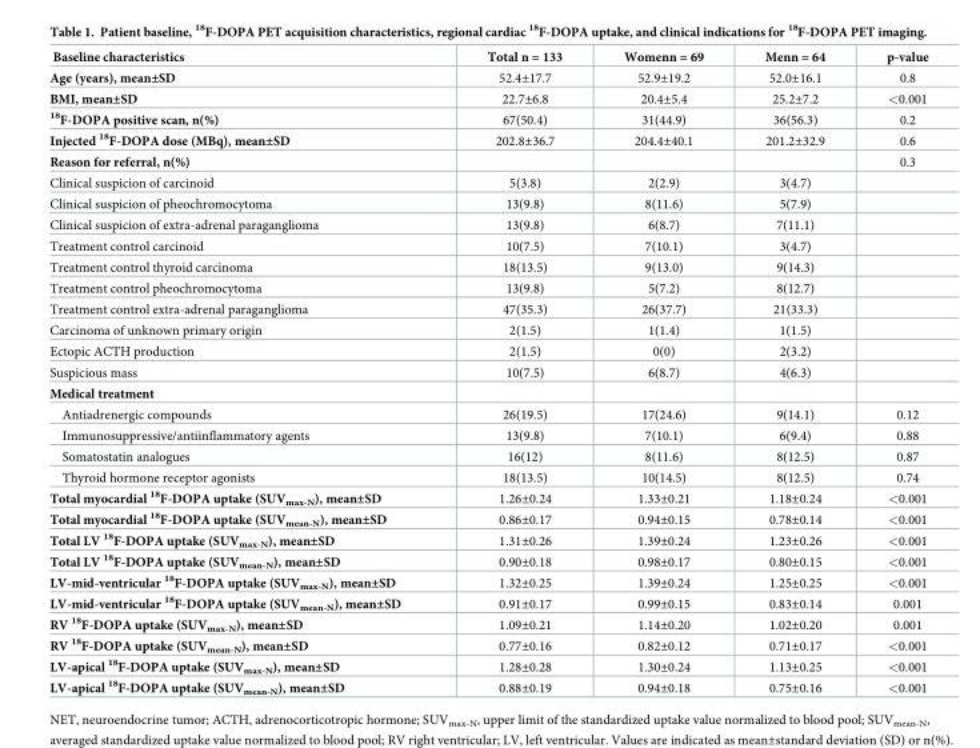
<table><thead><tr><td>Baseline characteristics</td><td>Total n = 133</td><td>Womenn = 69</td><td>Menn = 64</td><td>p-value</td></tr></thead><tbody><tr><td>Age (years), mean±SD</td><td>52.4±17.7</td><td>52.9±19.2</td><td>52.0±16.1</td><td>0.8</td></tr><tr><td>BMI, mean±SD</td><td>22.7±6.8</td><td>20.4±5.4</td><td>25.2±7.2</td><td>&lt;0.001</td></tr><tr><td><sup>18</sup>F-DOPA positive scan, n(%)</td><td>67(50.4)</td><td>31(44.9)</td><td>36(56.3)</td><td>0.2</td></tr><tr><td>Injected <sup>18</sup>F-DOPA dose (MBq), mean±SD</td><td>202.8±36.7</td><td>204.4±40.1</td><td>201.2±32.9</td><td>0.6</td></tr><tr><td>Reason for referral, n(%)</td><td></td><td></td><td></td><td>0.3</td></tr><tr><td>Clinical suspicion of carcinoid</td><td>5(3.8)</td><td>2(2.9)</td><td>3(4.7)</td><td></td></tr><tr><td>Clinical suspicion of pheochromocytoma</td><td>13(9.8)</td><td>8(11.6)</td><td>5(7.9)</td><td></td></tr><tr><td>Clinical suspicion of extra-adrenal paraganglioma</td><td>13(9.8)</td><td>6(8.7)</td><td>7(11.1)</td><td></td></tr><tr><td>Treatment control carcinoid</td><td>10(7.5)</td><td>7(10.1)</td><td>3(4.7)</td><td></td></tr><tr><td>Treatment control thyroid carcinoma</td><td>18(13.5)</td><td>9(13.0)</td><td>9(14.3)</td><td></td></tr><tr><td>Treatment control pheochromocytoma</td><td>13(9.8)</td><td>5(7.2)</td><td>8(12.7)</td><td></td></tr><tr><td>Treatment control extra-adrenal paraganglioma</td><td>47(35.3)</td><td>26(37.7)</td><td>21(33.3)</td><td></td></tr><tr><td>Carcinoma of unknown primary origin</td><td>2(1.5)</td><td>1(1.4)</td><td>1(1.5)</td><td></td></tr><tr><td>Ectopic ACTH production</td><td>2(1.5)</td><td>0(0)</td><td>2(3.2)</td><td></td></tr><tr><td>Suspicious mass</td><td>10(7.5)</td><td>6(8.7)</td><td>4(6.3)</td><td></td></tr><tr><td colspan="5">Medical treatment</td></tr><tr><td>Antiadrenergic compounds</td><td>26(19.5)</td><td>17(24.6)</td><td>9(14.1)</td><td>0.12</td></tr><tr><td>Immunosuppressive/antiinflammatory agents</td><td>13(9.8)</td><td>7(10.1)</td><td>6(9.4)</td><td>0.88</td></tr><tr><td>Somatostatin analogues</td><td>16(12)</td><td>8(11.6)</td><td>8(12.5)</td><td>0.87</td></tr><tr><td>Thyroid hormone receptor agonists</td><td>18(13.5)</td><td>10(14.5)</td><td>8(12.5)</td><td>0.74</td></tr><tr><td>Total myocardial <sup>18</sup>F-DOPA uptake (SUV<sub>max-N</sub>), mean±SD</td><td>1.26±0.24</td><td>1.33±0.21</td><td>1.18±0.24</td><td>&lt;0.001</td></tr><tr><td>Total myocardial <sup>18</sup>F-DOPA uptake (SUV<sub>mean-N</sub>), mean±SD</td><td>0.86±0.17</td><td>0.94±0.15</td><td>0.78±0.14</td><td>&lt;0.001</td></tr><tr><td>Total LV <sup>18</sup>F-DOPA uptake (SUV<sub>max-N</sub>), mean±SD</td><td>1.31±0.26</td><td>1.39±0.24</td><td>1.23±0.26</td><td>&lt;0.001</td></tr><tr><td>Total LV <sup>18</sup>F-DOPA uptake (SUV<sub>mean-N</sub>), mean±SD</td><td>0.90±0.18</td><td>0.98±0.17</td><td>0.80±0.15</td><td>&lt;0.001</td></tr><tr><td>LV-mid-ventricular <sup>18</sup>F-DOPA uptake (SUV<sub>max-N</sub>), mean±SD</td><td>1.32±0.25</td><td>1.39±0.24</td><td>1.25±0.25</td><td>&lt;0.001</td></tr><tr><td>LV-mid-ventricular <sup>18</sup>F-DOPA uptake (SUV<sub>mean-N</sub>), mean±SD</td><td>0.91±0.17</td><td>0.99±0.15</td><td>0.83±0.14</td><td>0.001</td></tr><tr><td>RV <sup>18</sup>F-DOPA uptake (SUV<sub>max-N</sub>), mean±SD</td><td>1.09±0.21</td><td>1.14±0.20</td><td>1.02±0.20</td><td>0.001</td></tr><tr><td>RV <sup>18</sup>F-DOPA uptake (SUV<sub>mean-N</sub>), mean±SD</td><td>0.77±0.16</td><td>0.82±0.12</td><td>0.71±0.17</td><td>&lt;0.001</td></tr><tr><td>LV-apical <sup>18</sup>F-DOPA uptake (SUV<sub>max-N</sub>), mean±SD</td><td>1.28±0.28</td><td>1.30±0.24</td><td>1.13±0.25</td><td>&lt;0.001</td></tr><tr><td>LV-apical <sup>18</sup>F-DOPA uptake (SUV<sub>mean-N</sub>), mean±SD</td><td>0.88±0.19</td><td>0.94±0.18</td><td>0.75±0.16</td><td>&lt;0.001</td></tr></tbody></table>